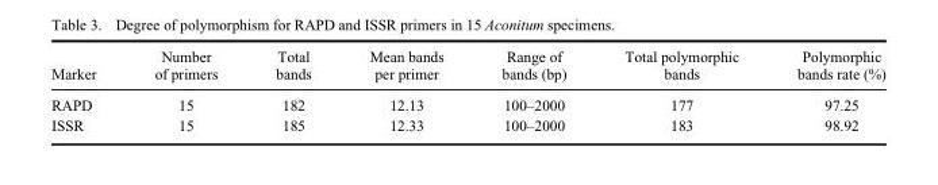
<table><thead><tr><td>Marker</td><td>Number of primers</td><td>Total bands</td><td>Mean bands per primer</td><td>Range of bands (bp)</td><td>Total polymorphic bands</td><td>Polymorphic bands rate (%)</td></tr></thead><tbody><tr><td>RAPD</td><td>15</td><td>182</td><td>12.13</td><td>100–2000</td><td>177</td><td>97.25</td></tr><tr><td>ISSR</td><td>15</td><td>185</td><td>12.33</td><td>100–2000</td><td>183</td><td>98.92</td></tr></tbody></table>